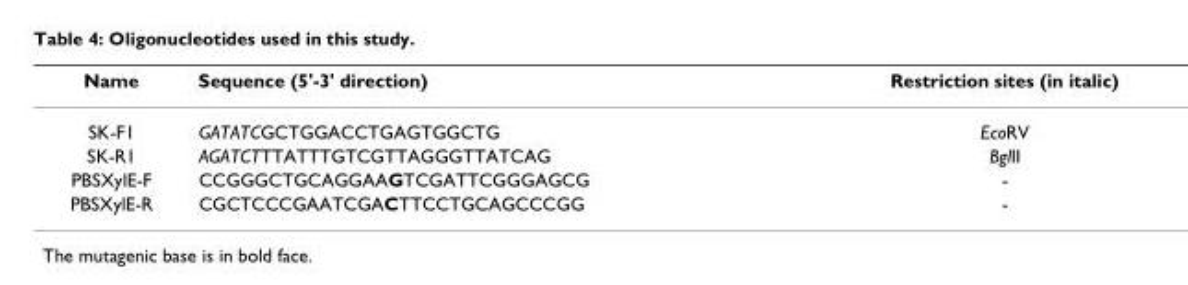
<table><thead><tr><td>Name</td><td>Sequence (5&#x27;-3&#x27; direction)</td><td>Restriction sites (in italic)</td></tr></thead><tbody><tr><td>SK-F1</td><td>GATATCGCTGGACCTGAGTGGCTG</td><td>EcoRV</td></tr><tr><td>SK-R1</td><td>AGATCTTTATTTGTCGTTAGGGTTATCAG</td><td>BglII</td></tr><tr><td>PBSXylE-F</td><td>CCGGGCTGCAGGAAGTCGATTCGGGAGCG</td><td>-</td></tr><tr><td>PBSXylE-R</td><td>CGCTCCCGAATCGACTTCCTGCAGCCCGG</td><td>-</td></tr></tbody></table>